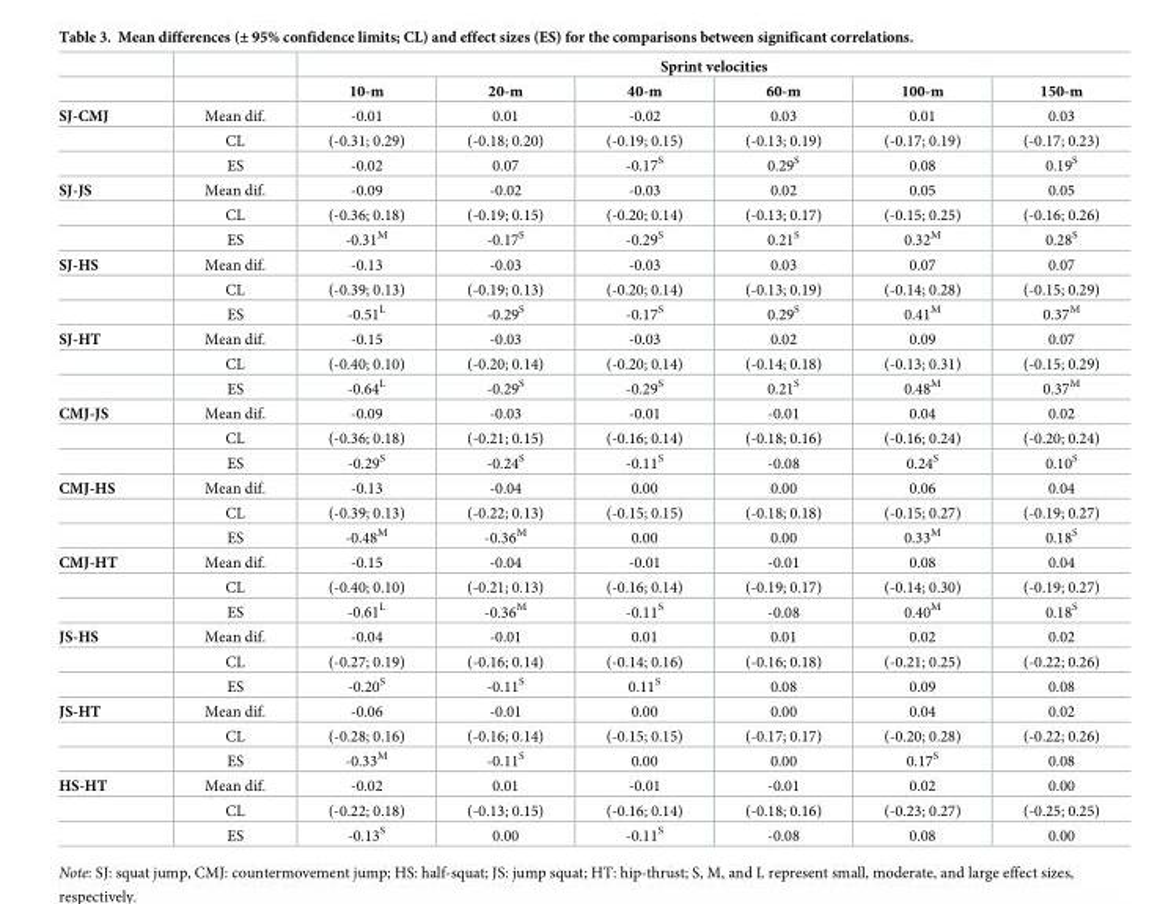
<table><thead><tr><td rowspan="2"></td><td rowspan="2"></td><td colspan="6">Sprint velocities</td></tr><tr><td>10-m</td><td>20-m</td><td>40-m</td><td>60-m</td><td>100-m</td><td>150-m</td></tr></thead><tbody><tr><td rowspan="3">SJ-CMJ</td><td>Mean dif.</td><td>-0.01</td><td>0.01</td><td>-0.02</td><td>0.03</td><td>0.01</td><td>0.03</td></tr><tr><td>CL</td><td>(-0.31; 0.29)</td><td>(-0.18; 0.20)</td><td>(-0.19; 0.15)</td><td>(-0.13; 0.19)</td><td>(-0.17; 0.19)</td><td>(-0.17; 0.23)</td></tr><tr><td>ES</td><td>-0.02</td><td>0.07</td><td>-0.17<sup>S</sup></td><td>0.29<sup>S</sup></td><td>0.08</td><td>0.19<sup>S</sup></td></tr><tr><td rowspan="3">SJ-JS</td><td>Mean dif.</td><td>-0.09</td><td>-0.02</td><td>-0.03</td><td>0.02</td><td>0.05</td><td>0.05</td></tr><tr><td>CL</td><td>(-0.36; 0.18)</td><td>(-0.19; 0.15)</td><td>(-0.20; 0.14)</td><td>(-0.13; 0.17)</td><td>(-0.15; 0.25)</td><td>(-0.16; 0.26)</td></tr><tr><td>ES</td><td>-0.31<sup>M</sup></td><td>-0.17<sup>S</sup></td><td>-0.29<sup>S</sup></td><td>0.21<sup>S</sup></td><td>0.32<sup>M</sup></td><td>0.28<sup>S</sup></td></tr><tr><td rowspan="3">SJ-HS</td><td>Mean dif.</td><td>-0.13</td><td>-0.03</td><td>-0.03</td><td>0.03</td><td>0.07</td><td>0.07</td></tr><tr><td>CL</td><td>(-0.39; 0.13)</td><td>(-0.19; 0.13)</td><td>(-0.20; 0.14)</td><td>(-0.13; 0.19)</td><td>(-0.14; 0.28)</td><td>(-0.15; 0.29)</td></tr><tr><td>ES</td><td>-0.51<sup>L</sup></td><td>-0.29<sup>S</sup></td><td>-0.17<sup>S</sup></td><td>0.29<sup>S</sup></td><td>0.41<sup>M</sup></td><td>0.37<sup>M</sup></td></tr><tr><td rowspan="3">SJ-HT</td><td>Mean dif.</td><td>-0.15</td><td>-0.03</td><td>-0.03</td><td>0.02</td><td>0.09</td><td>0.07</td></tr><tr><td>CL</td><td>(-0.40; 0.10)</td><td>(-0.20; 0.14)</td><td>(-0.20; 0.14)</td><td>(-0.14; 0.18)</td><td>(-0.13; 0.31)</td><td>(-0.15; 0.29)</td></tr><tr><td>ES</td><td>-0.64<sup>L</sup></td><td>-0.29<sup>S</sup></td><td>-0.29<sup>S</sup></td><td>0.21<sup>S</sup></td><td>0.48<sup>M</sup></td><td>0.37<sup>M</sup></td></tr><tr><td rowspan="3">CMJ-JS</td><td>Mean dif.</td><td>-0.09</td><td>-0.03</td><td>-0.01</td><td>-0.01</td><td>0.04</td><td>0.02</td></tr><tr><td>CL</td><td>(-0.36; 0.18)</td><td>(-0.21; 0.15)</td><td>(-0.16; 0.14)</td><td>(-0.18; 0.16)</td><td>(-0.16; 0.24)</td><td>(-0.20; 0.24)</td></tr><tr><td>ES</td><td>-0.29<sup>S</sup></td><td>-0.24<sup>S</sup></td><td>-0.11<sup>S</sup></td><td>-0.08</td><td>0.24<sup>S</sup></td><td>0.10<sup>S</sup></td></tr><tr><td rowspan="3">CMJ-HS</td><td>Mean dif.</td><td>-0.13</td><td>-0.04</td><td>0.00</td><td>0.00</td><td>0.06</td><td>0.04</td></tr><tr><td>CL</td><td>(-0.39; 0.13)</td><td>(-0.22; 0.13)</td><td>(-0.15; 0.15)</td><td>(-0.18; 0.18)</td><td>(-0.15; 0.27)</td><td>(-0.19; 0.27)</td></tr><tr><td>ES</td><td>-0.48<sup>M</sup></td><td>-0.36<sup>M</sup></td><td>0.00</td><td>0.00</td><td>0.33<sup>M</sup></td><td>0.18<sup>S</sup></td></tr><tr><td rowspan="3">CMJ-HT</td><td>Mean dif.</td><td>-0.15</td><td>-0.04</td><td>-0.01</td><td>-0.01</td><td>0.08</td><td>0.04</td></tr><tr><td>CL</td><td>(-0.40; 0.10)</td><td>(-0.21; 0.13)</td><td>(-0.16; 0.14)</td><td>(-0.19; 0.17)</td><td>(-0.14; 0.30)</td><td>(-0.19; 0.27)</td></tr><tr><td>ES</td><td>-0.61<sup>L</sup></td><td>-0.36<sup>M</sup></td><td>-0.11<sup>S</sup></td><td>-0.08</td><td>0.40<sup>M</sup></td><td>0.18<sup>S</sup></td></tr><tr><td rowspan="3">JS-HS</td><td>Mean dif.</td><td>-0.04</td><td>-0.01</td><td>0.01</td><td>0.01</td><td>0.02</td><td>0.02</td></tr><tr><td>CL</td><td>(-0.27; 0.19)</td><td>(-0.16; 0.14)</td><td>(-0.14; 0.16)</td><td>(-0.16; 0.18)</td><td>(-0.21; 0.25)</td><td>(-0.22; 0.26)</td></tr><tr><td>ES</td><td>-0.20<sup>S</sup></td><td>-0.11<sup>S</sup></td><td>0.11<sup>S</sup></td><td>0.08</td><td>0.09</td><td>0.08</td></tr><tr><td rowspan="3">JS-HT</td><td>Mean dif.</td><td>-0.06</td><td>-0.01</td><td>0.00</td><td>0.00</td><td>0.04</td><td>0.02</td></tr><tr><td>CL</td><td>(-0.28; 0.16)</td><td>(-0.16; 0.14)</td><td>(-0.15; 0.15)</td><td>(-0.17; 0.17)</td><td>(-0.20; 0.28)</td><td>(-0.22; 0.26)</td></tr><tr><td>ES</td><td>-0.33<sup>M</sup></td><td>-0.11<sup>S</sup></td><td>0.00</td><td>0.00</td><td>0.17<sup>S</sup></td><td>0.08</td></tr><tr><td rowspan="3">HS-HT</td><td>Mean dif.</td><td>-0.02</td><td>0.01</td><td>-0.01</td><td>-0.01</td><td>0.02</td><td>0.00</td></tr><tr><td>CL</td><td>(-0.22; 0.18)</td><td>(-0.13; 0.15)</td><td>(-0.16; 0.14)</td><td>(-0.18; 0.16)</td><td>(-0.23; 0.27)</td><td>(-0.25; 0.25)</td></tr><tr><td>ES</td><td>-0.13<sup>S</sup></td><td>0.00</td><td>-0.11<sup>S</sup></td><td>-0.08</td><td>0.08</td><td>0.00</td></tr></tbody></table>